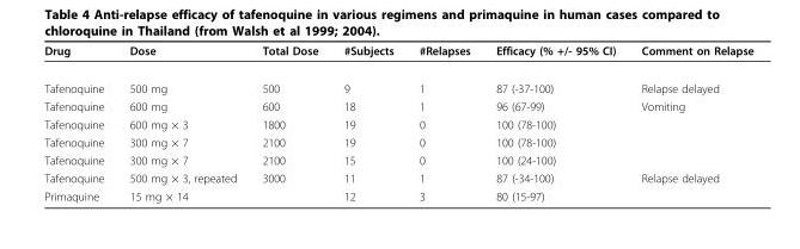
<table><thead><tr><td>Drug</td><td>Dose</td><td>Total Dose</td><td>#Subjects</td><td>#Relapses</td><td>Efficacy (% +/- 95% CI)</td><td>Comment on Relapse</td></tr></thead><tbody><tr><td>Tafenoquine</td><td>500 mg</td><td>500</td><td>9</td><td>1</td><td>87 (-37-100)</td><td>Relapse delayed</td></tr><tr><td>Tafenoquine</td><td>600 mg</td><td>600</td><td>18</td><td>1</td><td>96 (67-99)</td><td>Vomiting</td></tr><tr><td>Tafenoquine</td><td>600 mg × 3</td><td>1800</td><td>19</td><td>0</td><td>100 (78-100)</td><td></td></tr><tr><td>Tafenoquine</td><td>300 mg × 7</td><td>2100</td><td>19</td><td>0</td><td>100 (78-100)</td><td></td></tr><tr><td>Tafenoquine</td><td>300 mg × 7</td><td>2100</td><td>15</td><td>0</td><td>100 (24-100)</td><td></td></tr><tr><td>Tafenoquine</td><td>500 mg × 3, repeated</td><td>3000</td><td>11</td><td>1</td><td>87 (-34-100)</td><td>Relapse delayed</td></tr><tr><td>Primaquine</td><td>15 mg × 14</td><td></td><td>12</td><td>3</td><td>80 (15-97)</td><td></td></tr></tbody></table>